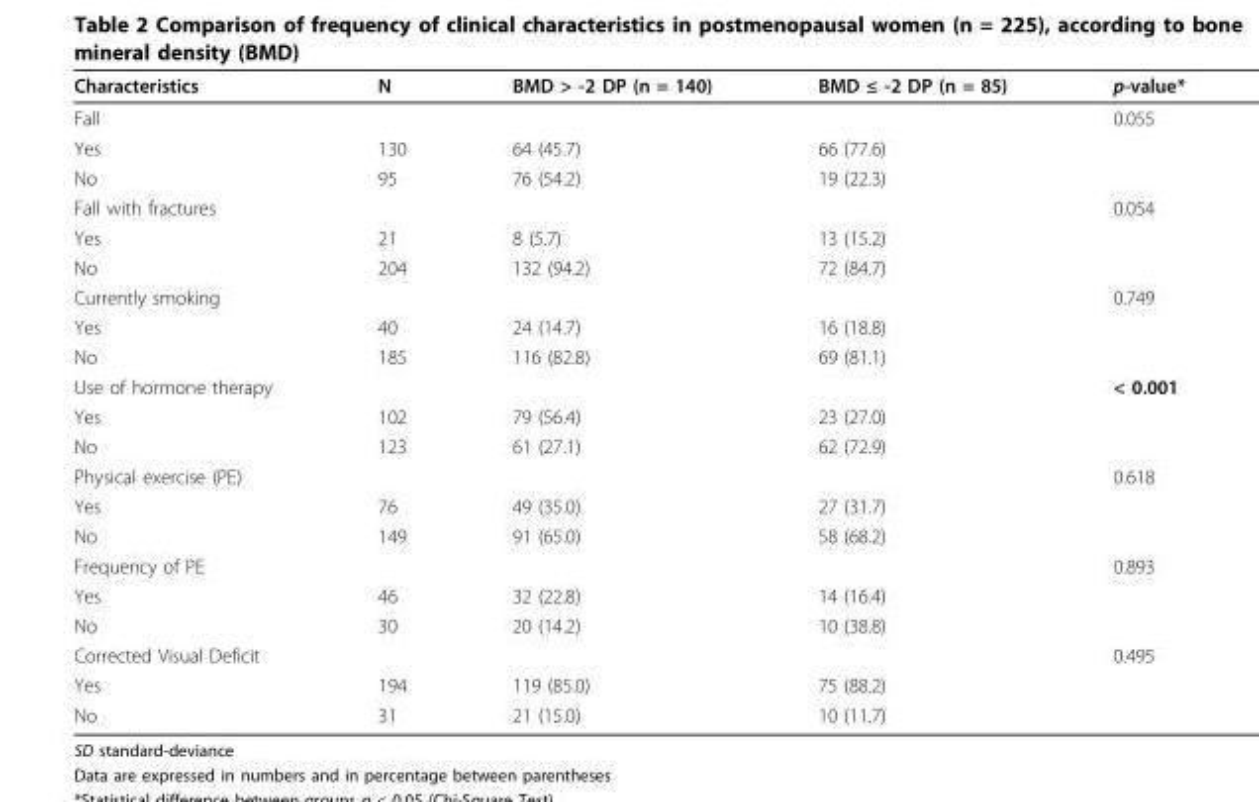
<table><thead><tr><td>Characteristics</td><td>N</td><td>BMD &gt; -2 DP (n = 140)</td><td>BMD ≤ -2 DP (n = 85)</td><td>p-value*</td></tr></thead><tbody><tr><td>Fall</td><td></td><td></td><td></td><td>0.055</td></tr><tr><td>Yes</td><td>130</td><td>64 (45.7)</td><td>66 (77.6)</td><td></td></tr><tr><td>No</td><td>95</td><td>76 (54.2)</td><td>19 (22.3)</td><td></td></tr><tr><td>Fall with fractures</td><td></td><td></td><td></td><td>0.054</td></tr><tr><td>Yes</td><td>21</td><td>8 (5.7)</td><td>13 (15.2)</td><td></td></tr><tr><td>No</td><td>204</td><td>132 (94.2)</td><td>72 (84.7)</td><td></td></tr><tr><td>Currently smoking</td><td></td><td></td><td></td><td>0.749</td></tr><tr><td>Yes</td><td>40</td><td>24 (14.7)</td><td>16 (18.8)</td><td></td></tr><tr><td>No</td><td>185</td><td>116 (82.8)</td><td>69 (81.1)</td><td></td></tr><tr><td>Use of hormone therapy</td><td></td><td></td><td></td><td>&lt; 0.001</td></tr><tr><td>Yes</td><td>102</td><td>79 (56.4)</td><td>23 (27.0)</td><td></td></tr><tr><td>No</td><td>123</td><td>61 (27.1)</td><td>62 (72.9)</td><td></td></tr><tr><td>Physical exercise (PE)</td><td></td><td></td><td></td><td>0.618</td></tr><tr><td>Yes</td><td>76</td><td>49 (35.0)</td><td>27 (31.7)</td><td></td></tr><tr><td>No</td><td>149</td><td>91 (65.0)</td><td>58 (68.2)</td><td></td></tr><tr><td>Frequency of PE</td><td></td><td></td><td></td><td>0.893</td></tr><tr><td>Yes</td><td>46</td><td>32 (22.8)</td><td>14 (16.4)</td><td></td></tr><tr><td>No</td><td>30</td><td>20 (14.2)</td><td>10 (38.8)</td><td></td></tr><tr><td>Corrected Visual Deficit</td><td></td><td></td><td></td><td>0.495</td></tr><tr><td>Yes</td><td>194</td><td>119 (85.0)</td><td>75 (88.2)</td><td></td></tr><tr><td>No</td><td>31</td><td>21 (15.0)</td><td>10 (11.7)</td><td></td></tr></tbody></table>